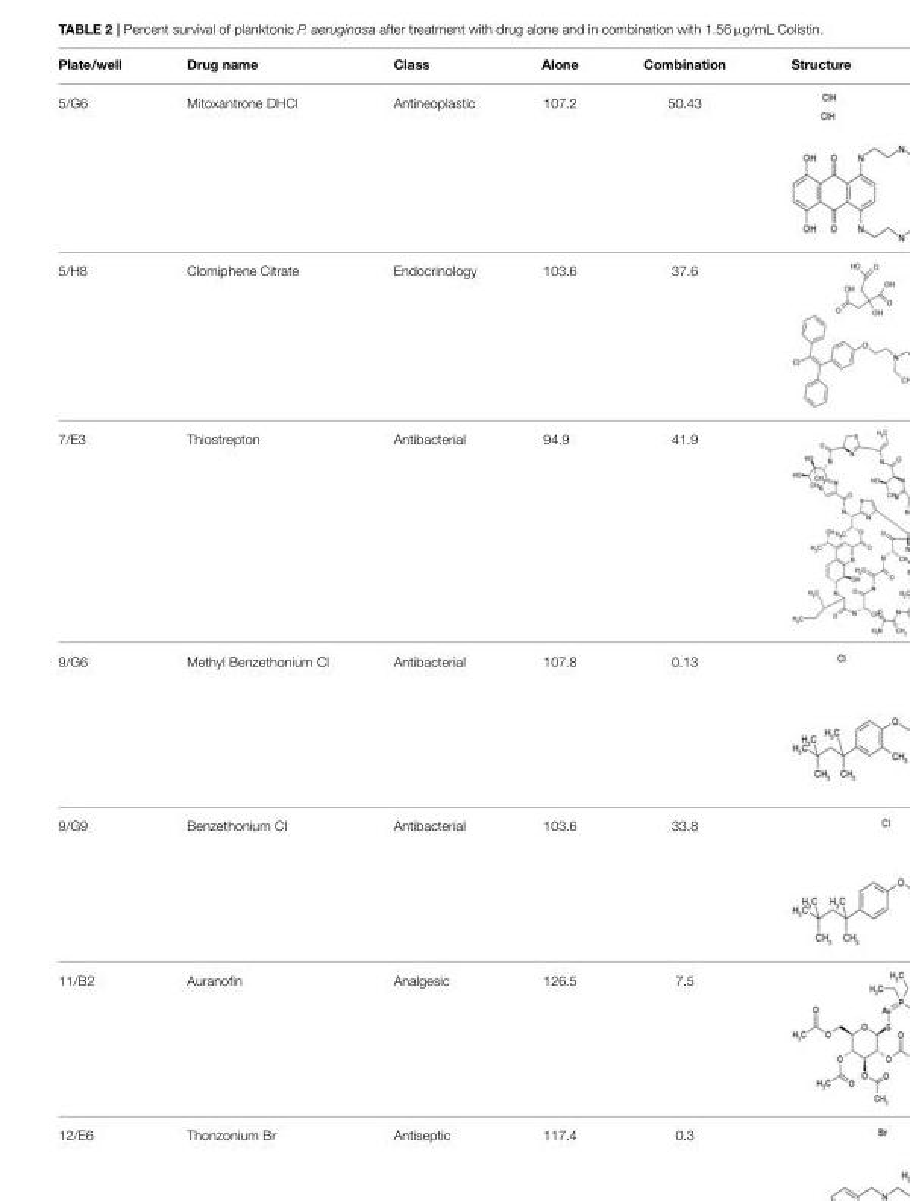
<table><thead><tr><td>Plate/well</td><td>Drug name</td><td>Class</td><td>Alone</td><td>Combination</td><td>Structure</td></tr></thead><tbody><tr><td>5/G6</td><td>Mitoxantrone DHCl</td><td>Antineoplastic</td><td>107.2</td><td>50.43</td><td></td></tr><tr><td>5/H8</td><td>Clomiphene Citrate</td><td>Endocrinology</td><td>103.6</td><td>37.6</td><td></td></tr><tr><td>7/E3</td><td>Thiostrepton</td><td>Antibacterial</td><td>94.9</td><td>41.9</td><td></td></tr><tr><td>9/G6</td><td>Methyl Benzethonium Cl</td><td>Antibacterial</td><td>107.8</td><td>0.13</td><td></td></tr><tr><td>9/G9</td><td>Benzethonium Cl</td><td>Antibacterial</td><td>103.6</td><td>33.8</td><td></td></tr><tr><td>11/B2</td><td>Auranofin</td><td>Analgesic</td><td>126.5</td><td>7.5</td><td></td></tr><tr><td>12/E6</td><td>Thonzonium Br</td><td>Antiseptic</td><td>117.4</td><td>0.3</td><td></td></tr></tbody></table>